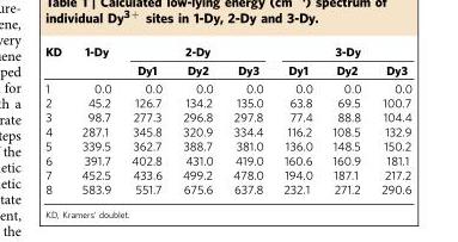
<table><thead><tr><td rowspan="2">KD</td><td rowspan="2">1-Dy</td><td colspan="3">2-Dy</td><td colspan="3">3-Dy</td></tr><tr><td>Dy1</td><td>Dy2</td><td>Dy3</td><td>Dy1</td><td>Dy2</td><td>Dy3</td></tr></thead><tbody><tr><td>1</td><td>0.0</td><td>0.0</td><td>0.0</td><td>0.0</td><td>0.0</td><td>0.0</td><td>0.0</td></tr><tr><td>2</td><td>45.2</td><td>126.7</td><td>134.2</td><td>135.0</td><td>63.8</td><td>69.5</td><td>100.7</td></tr><tr><td>3</td><td>98.7</td><td>277.3</td><td>296.8</td><td>297.8</td><td>77.4</td><td>88.8</td><td>104.4</td></tr><tr><td>4</td><td>287.1</td><td>345.8</td><td>320.9</td><td>334.4</td><td>116.2</td><td>108.5</td><td>132.9</td></tr><tr><td>5</td><td>339.5</td><td>362.7</td><td>388.7</td><td>381.0</td><td>136.0</td><td>148.5</td><td>150.2</td></tr><tr><td>6</td><td>391.7</td><td>402.8</td><td>431.0</td><td>419.0</td><td>160.6</td><td>160.9</td><td>181.1</td></tr><tr><td>7</td><td>452.5</td><td>433.6</td><td>499.2</td><td>478.0</td><td>194.0</td><td>187.1</td><td>217.2</td></tr><tr><td>8</td><td>583.9</td><td>551.7</td><td>675.6</td><td>637.8</td><td>232.1</td><td>271.2</td><td>290.6</td></tr></tbody></table>